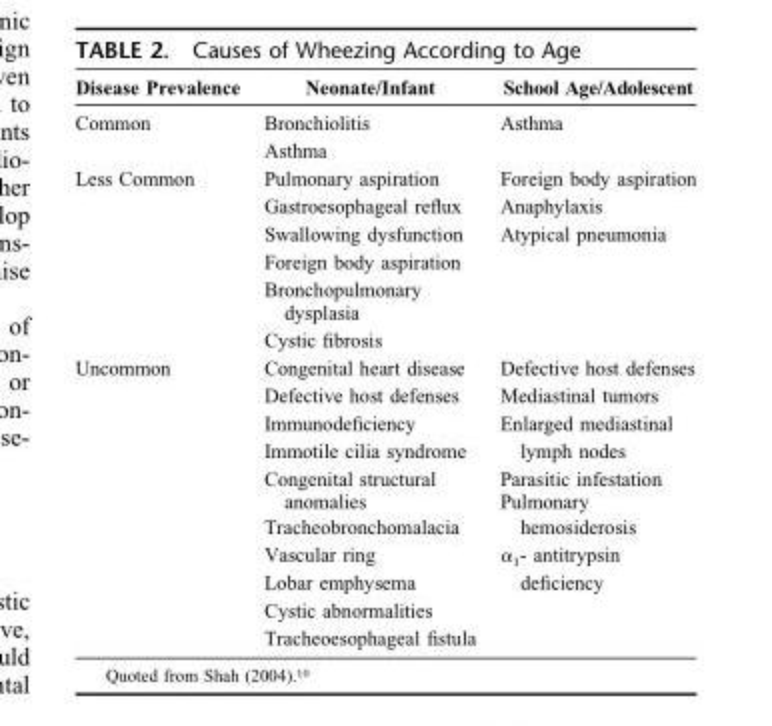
<table><thead><tr><td>Disease Prevalence</td><td>Neonate/Infant</td><td>School Age/Adolescent</td></tr></thead><tbody><tr><td rowspan="2">Common</td><td>Bronchiolitis</td><td>Asthma</td></tr><tr><td>Asthma</td><td></td></tr><tr><td rowspan="5">Less Common</td><td>Pulmonary aspiration</td><td>Foreign body aspiration</td></tr><tr><td>Gastroesophageal reflux</td><td>Anaphylaxis</td></tr><tr><td>Swallowing dysfunction</td><td>Atypical pneumonia</td></tr><tr><td>Foreign body aspiration Bronchopulmonary dysplasia</td><td></td></tr><tr><td>Cystic fibrosis</td><td></td></tr><tr><td rowspan="11">Uncommon</td><td>Congenital heart disease</td><td>Defective host defenses</td></tr><tr><td>Defective host defenses</td><td>Mediastinal tumors</td></tr><tr><td>Immunodeficiency</td><td>Enlarged mediastinal</td></tr><tr><td>Immotile cilia syndrome</td><td>lymph nodes</td></tr><tr><td>Congenital structural</td><td>Parasitic infestation</td></tr><tr><td>anomalies</td><td>Pulmonary</td></tr><tr><td>Tracheobronchomalacia</td><td>hemosiderosis</td></tr><tr><td>Vascular ring</td><td>α<sub>1</sub>- antitrypsin</td></tr><tr><td>Lobar emphysema</td><td>deficiency</td></tr><tr><td>Cystic abnormalities</td><td></td></tr><tr><td>Tracheoesophageal fistula</td><td></td></tr></tbody></table>